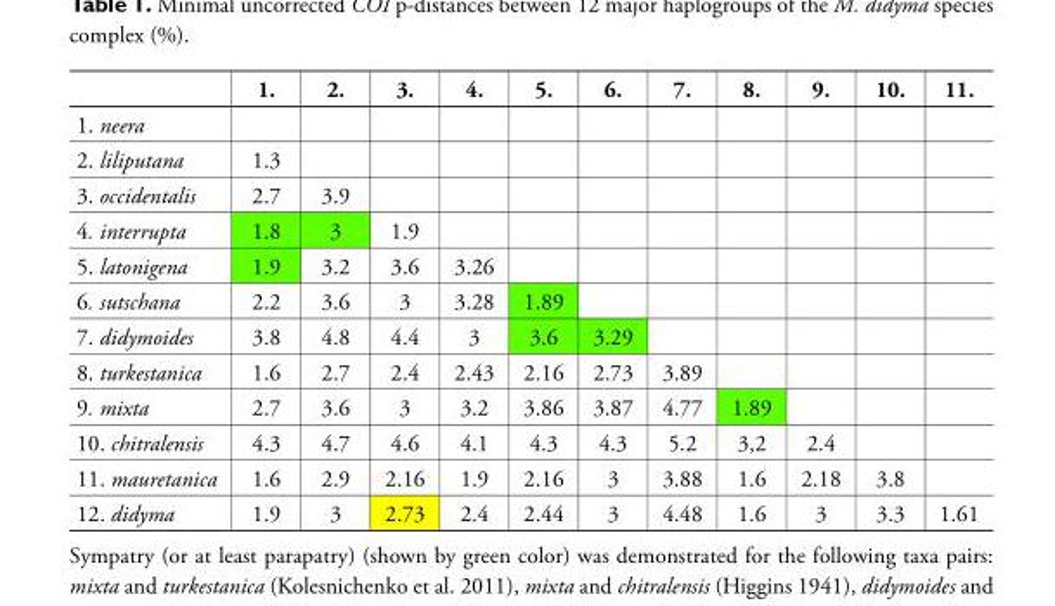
<table><thead><tr><td></td><td>1.</td><td>2.</td><td>3.</td><td>4.</td><td>5.</td><td>6.</td><td>7.</td><td>8.</td><td>9.</td><td>10.</td><td>11.</td></tr></thead><tbody><tr><td colspan="12">1. neera</td></tr><tr><td>2. liliputana</td><td>1.3</td><td></td><td></td><td></td><td></td><td></td><td></td><td></td><td></td><td></td><td></td></tr><tr><td>3. occidentalis</td><td>2.7</td><td>3.9</td><td></td><td></td><td></td><td></td><td></td><td></td><td></td><td></td><td></td></tr><tr><td>4. interrupta</td><td>1.8</td><td>3</td><td>1.9</td><td></td><td></td><td></td><td></td><td></td><td></td><td></td><td></td></tr><tr><td>5. latonigena</td><td>1.9</td><td>3.2</td><td>3.6</td><td>3.26</td><td></td><td></td><td></td><td></td><td></td><td></td><td></td></tr><tr><td>6. sutschana</td><td>2.2</td><td>3.6</td><td>3</td><td>3.28</td><td>1.89</td><td></td><td></td><td></td><td></td><td></td><td></td></tr><tr><td>7. didymoides</td><td>3.8</td><td>4.8</td><td>4.4</td><td>3</td><td>3.6</td><td>3.29</td><td></td><td></td><td></td><td></td><td></td></tr><tr><td>8. turkestanica</td><td>1.6</td><td>2.7</td><td>2.4</td><td>2.43</td><td>2.16</td><td>2.73</td><td>3.89</td><td></td><td></td><td></td><td></td></tr><tr><td>9. mixta</td><td>2.7</td><td>3.6</td><td>3</td><td>3.2</td><td>3.86</td><td>3.87</td><td>4.77</td><td>1.89</td><td></td><td></td><td></td></tr><tr><td>10. chitralensis</td><td>4.3</td><td>4.7</td><td>4.6</td><td>4.1</td><td>4.3</td><td>4.3</td><td>5.2</td><td>3,2</td><td>2.4</td><td></td><td></td></tr><tr><td>11. mauretanica</td><td>1.6</td><td>2.9</td><td>2.16</td><td>1.9</td><td>2.16</td><td>3</td><td>3.88</td><td>1.6</td><td>2.18</td><td>3.8</td><td></td></tr><tr><td>12. didyma</td><td>1.9</td><td>3</td><td>2.73</td><td>2.4</td><td>2.44</td><td>3</td><td>4.48</td><td>1.6</td><td>3</td><td>3.3</td><td>1.61</td></tr></tbody></table>